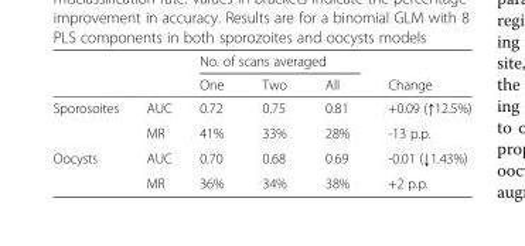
<table><thead><tr><td rowspan="2"></td><td rowspan="2"></td><td colspan="3">No. of scans averaged</td><td rowspan="2">Change</td></tr><tr><td>One</td><td>Two</td><td>All</td></tr></thead><tbody><tr><td rowspan="2">Sporosoites</td><td>AUC</td><td>0.72</td><td>0.75</td><td>0.81</td><td>+0.09 (↑12.5%)</td></tr><tr><td>MR</td><td>41%</td><td>33%</td><td>28%</td><td>-13 p.p.</td></tr><tr><td rowspan="2">Oocysts</td><td>AUC</td><td>0.70</td><td>0.68</td><td>0.69</td><td>-0.01 (↓1.43%)</td></tr><tr><td>MR</td><td>36%</td><td>34%</td><td>38%</td><td>+2 p.p.</td></tr></tbody></table>